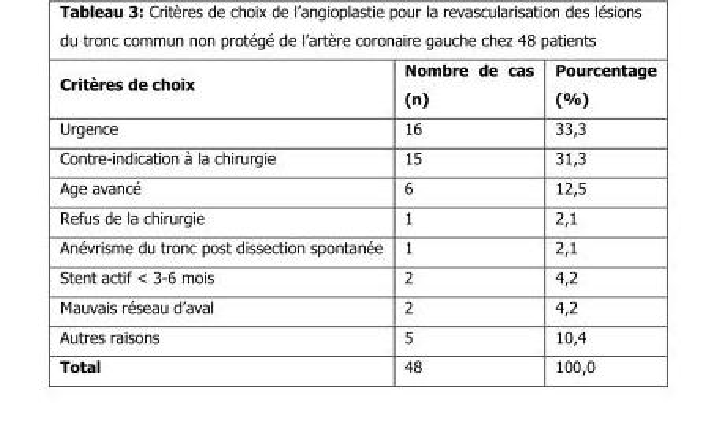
<table><thead><tr><td>Critères de choix</td><td>Nombre de cas (n)</td><td>Pourcentage (%)</td></tr></thead><tbody><tr><td>Urgence</td><td>16</td><td>33,3</td></tr><tr><td>Contre-indication à la chirurgie</td><td>15</td><td>31,3</td></tr><tr><td>Age avancé</td><td>6</td><td>12,5</td></tr><tr><td>Refus de la chirurgie</td><td>1</td><td>2,1</td></tr><tr><td>Anévrisme du tronc post dissection spontanée</td><td>1</td><td>2,1</td></tr><tr><td>Stent actif &lt; 3-6 mois</td><td>2</td><td>4,2</td></tr><tr><td>Mauvais réseau d’aval</td><td>2</td><td>4,2</td></tr><tr><td>Autres raisons</td><td>5</td><td>10,4</td></tr><tr><td>Total</td><td>48</td><td>100,0</td></tr></tbody></table>